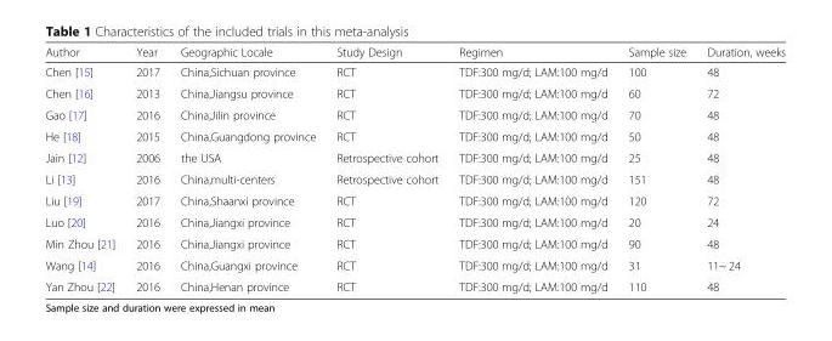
<table><thead><tr><td>Author</td><td>Year</td><td>Geographic Locale</td><td>Study Design</td><td>Regimen</td><td>Sample size</td><td>Duration, weeks</td></tr></thead><tbody><tr><td>Chen [15]</td><td>2017</td><td>China,Sichuan province</td><td>RCT</td><td>TDF:300 mg/d; LAM:100 mg/d</td><td>100</td><td>48</td></tr><tr><td>Chen [16]</td><td>2013</td><td>China,Jiangsu province</td><td>RCT</td><td>TDF:300 mg/d; LAM:100 mg/d</td><td>60</td><td>72</td></tr><tr><td>Gao [17]</td><td>2016</td><td>China,Jilin province</td><td>RCT</td><td>TDF:300 mg/d; LAM:100 mg/d</td><td>70</td><td>48</td></tr><tr><td>He [18]</td><td>2015</td><td>China,Guangdong province</td><td>RCT</td><td>TDF:300 mg/d; LAM:100 mg/d</td><td>50</td><td>48</td></tr><tr><td>Jain [12]</td><td>2006</td><td>the USA</td><td>Retrospective cohort</td><td>TDF:300 mg/d; LAM:100 mg/d</td><td>25</td><td>48</td></tr><tr><td>Li [13]</td><td>2016</td><td>China,multi-centers</td><td>Retrospective cohort</td><td>TDF:300 mg/d; LAM:100 mg/d</td><td>151</td><td>48</td></tr><tr><td>Liu [19]</td><td>2017</td><td>China,Shaanxi province</td><td>RCT</td><td>TDF:300 mg/d; LAM:100 mg/d</td><td>120</td><td>72</td></tr><tr><td>Luo [20]</td><td>2016</td><td>China,Jiangxi province</td><td>RCT</td><td>TDF:300 mg/d; LAM:100 mg/d</td><td>20</td><td>24</td></tr><tr><td>Min Zhou [21]</td><td>2016</td><td>China,Jiangxi province</td><td>RCT</td><td>TDF:300 mg/d; LAM:100 mg/d</td><td>90</td><td>48</td></tr><tr><td>Wang [14]</td><td>2016</td><td>China,Guangxi province</td><td>RCT</td><td>TDF:300 mg/d; LAM:100 mg/d</td><td>31</td><td>11~ 24</td></tr><tr><td>Yan Zhou [22]</td><td>2016</td><td>China,Henan province</td><td>RCT</td><td>TDF:300 mg/d; LAM:100 mg/d</td><td>110</td><td>48</td></tr></tbody></table>